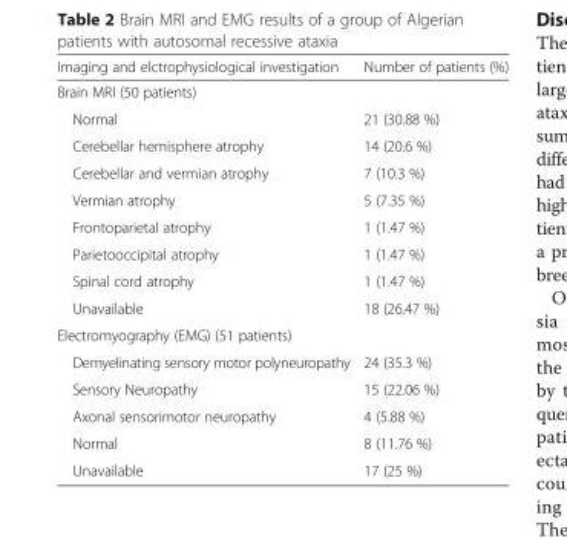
<table><thead><tr><td>Imaging and elctrophysiological investigation</td><td>Number of patients (%)</td></tr></thead><tbody><tr><td colspan="2">Brain MRI (50 patients)</td></tr><tr><td>Normal</td><td>21 (30.88 %)</td></tr><tr><td>Cerebellar hemisphere atrophy</td><td>14 (20.6 %)</td></tr><tr><td>Cerebellar and vermian atrophy</td><td>7 (10.3 %)</td></tr><tr><td>Vermian atrophy</td><td>5 (7.35 %)</td></tr><tr><td>Frontoparietal atrophy</td><td>1 (1.47 %)</td></tr><tr><td>Parietooccipital atrophy</td><td>1 (1.47 %)</td></tr><tr><td>Spinal cord atrophy</td><td>1 (1.47 %)</td></tr><tr><td>Unavailable</td><td>18 (26.47 %)</td></tr><tr><td colspan="2">Electromyography (EMG) (51 patients)</td></tr><tr><td>Demyelinating sensory motor polyneuropathy</td><td>24 (35.3 %)</td></tr><tr><td>Sensory Neuropathy</td><td>15 (22.06 %)</td></tr><tr><td>Axonal sensorimotor neuropathy</td><td>4 (5.88 %)</td></tr><tr><td>Normal</td><td>8 (11.76 %)</td></tr><tr><td>Unavailable</td><td>17 (25 %)</td></tr></tbody></table>